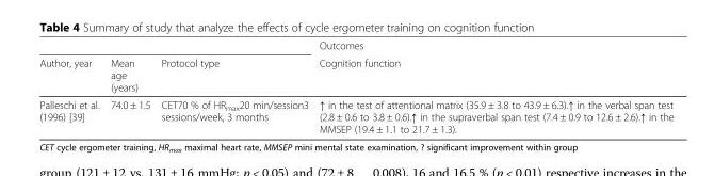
<table><thead><tr><td rowspan="2">Author, year</td><td rowspan="2">Mean age (years)</td><td rowspan="2">Protocol type</td><td rowspan="2">Outcomes Cognition function</td></tr><tr></tr></thead><tbody><tr><td>Palleschi et al. (1996) [39]</td><td>74.0 ± 1.5</td><td>CET70 % of HR<sub>max</sub>20 min/session3 sessions/week, 3 months</td><td>↑ in the test of attentional matrix (35.9 ± 3.8 to 43.9 ± 6.3).↑ in the verbal span test (2.8 ± 0.6 to 3.8 ± 0.6).↑ in the supraverbal span test (7.4 ± 0.9 to 12.6 ± 2.6).↑ in the MMSEP (19.4 ± 1.1 to 21.7 ± 1.3).</td></tr></tbody></table>